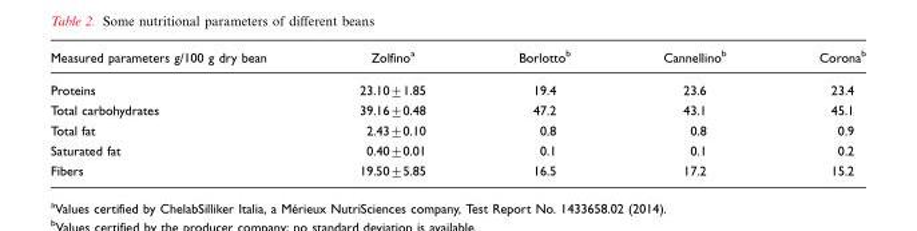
<table><thead><tr><td>Measured parameters g/100 g dry bean</td><td>Zolfino<sup>a</sup></td><td>Borlotto<sup>b</sup></td><td>Cannellino<sup>b</sup></td><td>Corona<sup>b</sup></td></tr></thead><tbody><tr><td>Proteins</td><td>23.10±1.85</td><td>19.4</td><td>23.6</td><td>23.4</td></tr><tr><td>Total carbohydrates</td><td>39.16±0.48</td><td>47.2</td><td>43.1</td><td>45.1</td></tr><tr><td>Total fat</td><td>2.43±0.10</td><td>0.8</td><td>0.8</td><td>0.9</td></tr><tr><td>Saturated fat</td><td>0.40±0.01</td><td>0.1</td><td>0.1</td><td>0.2</td></tr><tr><td>Fibers</td><td>19.50±5.85</td><td>16.5</td><td>17.2</td><td>15.2</td></tr></tbody></table>